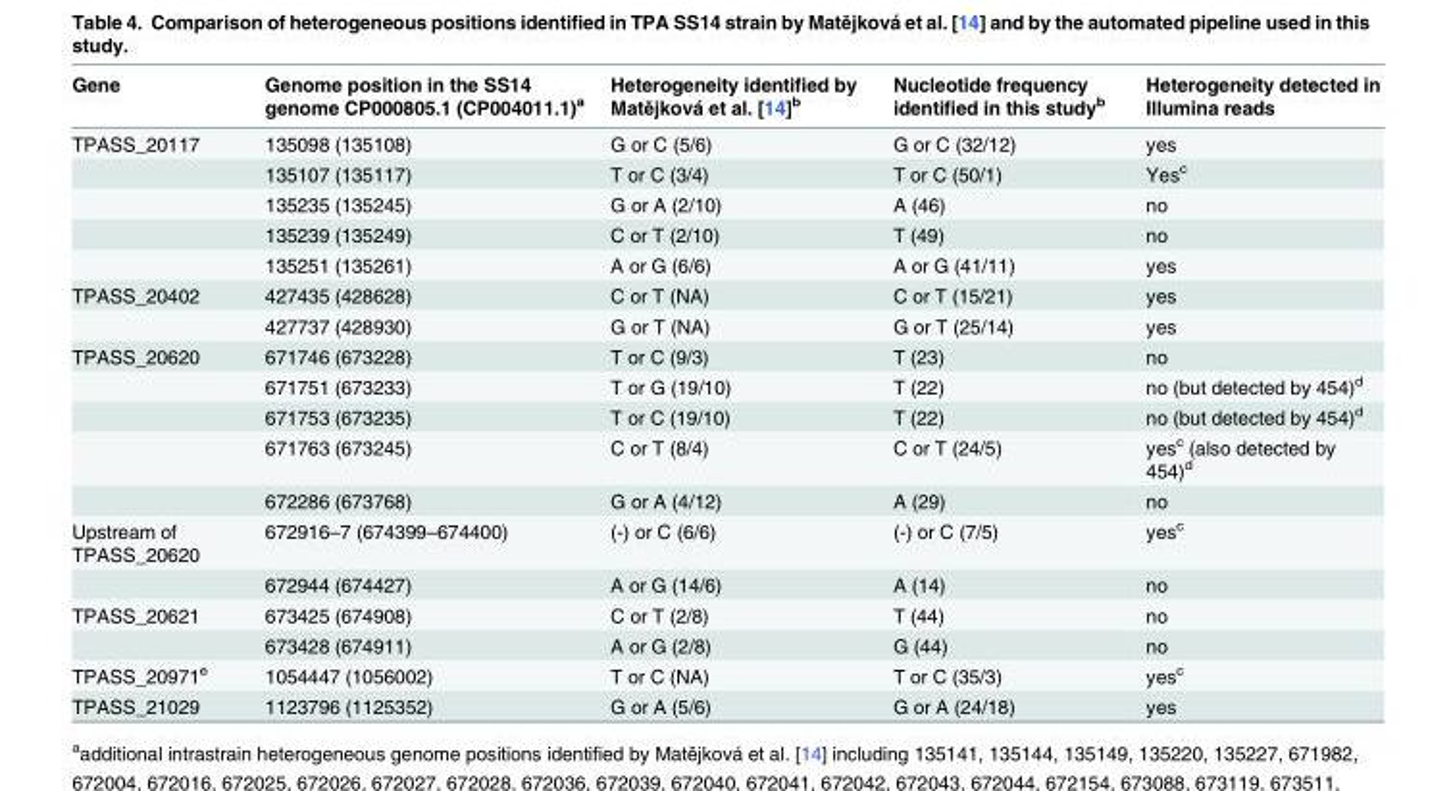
<table><thead><tr><td>Gene</td><td>Genome position in the SS14 genome CP000805.1 (CP004011.1)<sup>a</sup></td><td>Heterogeneity identified by Matějková et al. [14]<sup>b</sup></td><td>Nucleotide frequency identified in this study<sup>b</sup></td><td>Heterogeneity detected in Illumina reads</td></tr></thead><tbody><tr><td rowspan="5">TPASS_20117</td><td>135098 (135108)</td><td>G or C (5/6)</td><td>G or C (32/12)</td><td>yes</td></tr><tr><td>135107 (135117)</td><td>T or C (3/4)</td><td>T or C (50/1)</td><td>Yes<sup>c</sup></td></tr><tr><td>135235 (135245)</td><td>G or A (2/10)</td><td>A (46)</td><td>no</td></tr><tr><td>135239 (135249)</td><td>C or T (2/10)</td><td>T (49)</td><td>no</td></tr><tr><td>135251 (135261)</td><td>A or G (6/6)</td><td>A or G (41/11)</td><td>yes</td></tr><tr><td rowspan="2">TPASS_20402</td><td>427435 (428628)</td><td>C or T (NA)</td><td>C or T (15/21)</td><td>yes</td></tr><tr><td>427737 (428930)</td><td>G or T (NA)</td><td>G or T (25/14)</td><td>yes</td></tr><tr><td rowspan="5">TPASS_20620</td><td>671746 (673228)</td><td>T or C (9/3)</td><td>T (23)</td><td>no</td></tr><tr><td>671751 (673233)</td><td>T or G (19/10)</td><td>T (22)</td><td>no (but detected by 454)<sup>d</sup></td></tr><tr><td>671753 (673235)</td><td>T or C (19/10)</td><td>T (22)</td><td>no (but detected by 454)<sup>d</sup></td></tr><tr><td>671763 (673245)</td><td>C or T (8/4)</td><td>C or T (24/5)</td><td>yes<sup>c</sup> (also detected by 454)<sup>d</sup></td></tr><tr><td>672286 (673768)</td><td>G or A (4/12)</td><td>A (29)</td><td>no</td></tr><tr><td rowspan="2">Upstream of TPASS_20620</td><td>672916–7 (674399–674400)</td><td>(-) or C (6/6)</td><td>(-) or C (7/5)</td><td>yes<sup>c</sup></td></tr><tr><td>672944 (674427)</td><td>A or G (14/6)</td><td>A (14)</td><td>no</td></tr><tr><td rowspan="2">TPASS_20621</td><td>673425 (674908)</td><td>C or T (2/8)</td><td>T (44)</td><td>no</td></tr><tr><td>673428 (674911)</td><td>A or G (2/8)</td><td>G (44)</td><td>no</td></tr><tr><td>TPASS_20971<sup>e</sup></td><td>1054447 (1056002)</td><td>T or C (NA)</td><td>T or C (35/3)</td><td>yes<sup>c</sup></td></tr><tr><td>TPASS_21029</td><td>1123796 (1125352)</td><td>G or A (5/6)</td><td>G or A (24/18)</td><td>yes</td></tr></tbody></table>